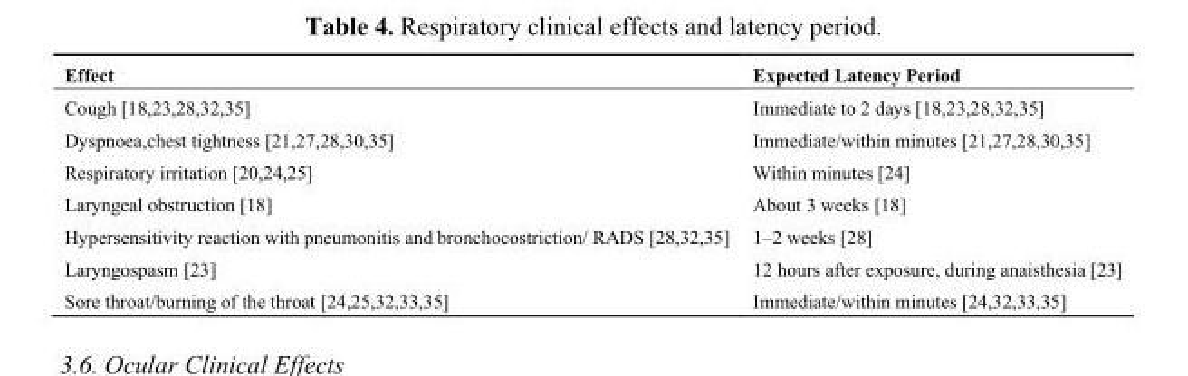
<table><thead><tr><td>Effect</td><td>Expected Latency Period</td></tr></thead><tbody><tr><td>Cough [18,23,28,32,35]</td><td>Immediate to 2 days [18,23,28,32,35]</td></tr><tr><td>Dyspnoea,chest tightness [21,27,28,30,35]</td><td>Immediate/within minutes [21,27,28,30,35]</td></tr><tr><td>Respiratory irritation [20,24,25]</td><td>Within minutes [24]</td></tr><tr><td>Laryngeal obstruction [18]</td><td>About 3 weeks [18]</td></tr><tr><td>Hypersensitivity reaction with pneumonitis and bronchocostriction/ RADS [28,32,35]</td><td>1–2 weeks [28]</td></tr><tr><td>Laryngospasm [23]</td><td>12 hours after exposure, during anaisthesia [23]</td></tr><tr><td>Sore throat/burning of the throat [24,25,32,33,35]</td><td>Immediate/within minutes [24,32,33,35]</td></tr></tbody></table>